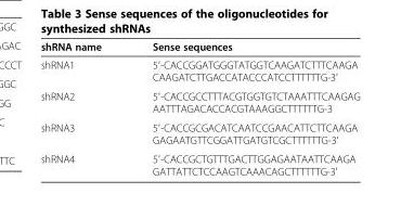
<table><thead><tr><td>shRNA name</td><td>Sense sequences</td></tr></thead><tbody><tr><td>shRNA1</td><td>5′-CACCGGATGGGTATGGTCAAGATCTTTCAAGA CAAGATCTTGACCATACCCATCCTTTTTTG-3′</td></tr><tr><td>shRNA2</td><td>5′-CACCGCCTTTACGTGGTGTCTAAATTTCAAGAG AATTTAGACACCACGTAAAGGCTTTTTTG-3</td></tr><tr><td>shRNA3</td><td>5′-CACCGCGACATCAATCCGAACATTCTTCAAGA GAGAATGTTCGGATTGATGTCGCTTTTTTG-3′</td></tr><tr><td>shRNA4</td><td>5′-CACCGCTGTTTGACTTGGAGAATAATTCAAGA GATTATTCTCCAAGTCAAACAGCTTTTTTG-3′</td></tr></tbody></table>